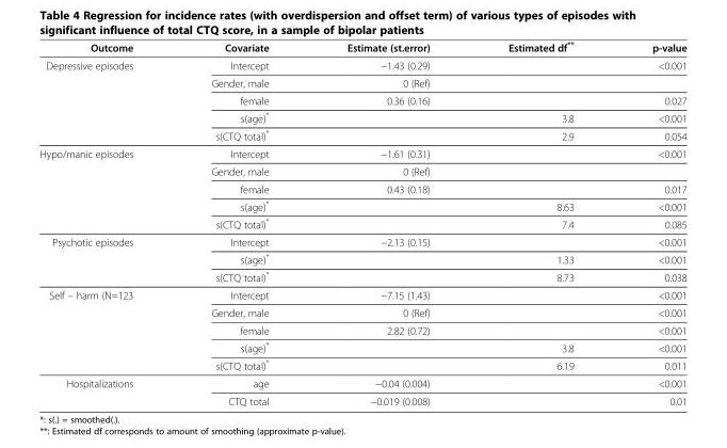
<table><thead><tr><td>Outcome</td><td>Covariate</td><td>Estimate (st.error)</td><td>Estimated df**</td><td>p-value</td></tr></thead><tbody><tr><td rowspan="5">Depressive episodes</td><td>Intercept</td><td>−1.43 (0.29)</td><td></td><td>&lt;0.001</td></tr><tr><td>Gender, male</td><td>0 (Ref)</td><td></td><td></td></tr><tr><td>female</td><td>0.36 (0.16)</td><td></td><td>0.027</td></tr><tr><td>s(age)*</td><td></td><td>3.8</td><td>&lt;0.001</td></tr><tr><td>s(CTQ total)*</td><td></td><td>2.9</td><td>0.054</td></tr><tr><td rowspan="5">Hypo/manic episodes</td><td>Intercept</td><td>−1.61 (0.31)</td><td></td><td>&lt;0.001</td></tr><tr><td>Gender, male</td><td>0 (Ref)</td><td></td><td></td></tr><tr><td>female</td><td>0.43 (0.18)</td><td></td><td>0.017</td></tr><tr><td>s(age)*</td><td></td><td>8.63</td><td>&lt;0.001</td></tr><tr><td>s(CTQ total)*</td><td></td><td>7.4</td><td>0.085</td></tr><tr><td rowspan="3">Psychotic episodes</td><td>Intercept</td><td>−2.13 (0.15)</td><td></td><td>&lt;0.001</td></tr><tr><td>s(age)*</td><td></td><td>1.33</td><td>&lt;0.001</td></tr><tr><td>s(CTQ total)*</td><td></td><td>8.73</td><td>0.038</td></tr><tr><td rowspan="5">Self – harm (N=123</td><td>Intercept</td><td>−7.15 (1.43)</td><td></td><td>&lt;0.001</td></tr><tr><td>Gender, male</td><td>0 (Ref)</td><td></td><td>&lt;0.001</td></tr><tr><td>female</td><td>2.82 (0.72)</td><td></td><td>&lt;0.001</td></tr><tr><td>s(age)*</td><td></td><td>3.8</td><td>&lt;0.001</td></tr><tr><td>s(CTQ total)*</td><td></td><td>6.19</td><td>0.011</td></tr><tr><td rowspan="2">Hospitalizations</td><td>age</td><td>−0.04 (0.004)</td><td></td><td>&lt;0.001</td></tr><tr><td>CTQ total</td><td>−0.019 (0.008)</td><td></td><td>0.01</td></tr></tbody></table>